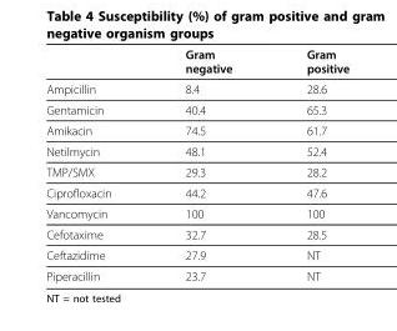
<table><thead><tr><td></td><td>Gram negative</td><td>Gram positive</td></tr></thead><tbody><tr><td>Ampicillin</td><td>8.4</td><td>28.6</td></tr><tr><td>Gentamicin</td><td>40.4</td><td>65.3</td></tr><tr><td>Amikacin</td><td>74.5</td><td>61.7</td></tr><tr><td>Netilmycin</td><td>48.1</td><td>52.4</td></tr><tr><td>TMP/SMX</td><td>29.3</td><td>28.2</td></tr><tr><td>Ciprofloxacin</td><td>44.2</td><td>47.6</td></tr><tr><td>Vancomycin</td><td>100</td><td>100</td></tr><tr><td>Cefotaxime</td><td>32.7</td><td>28.5</td></tr><tr><td>Ceftazidime</td><td>27.9</td><td>NT</td></tr><tr><td>Piperacillin</td><td>23.7</td><td>NT</td></tr></tbody></table>